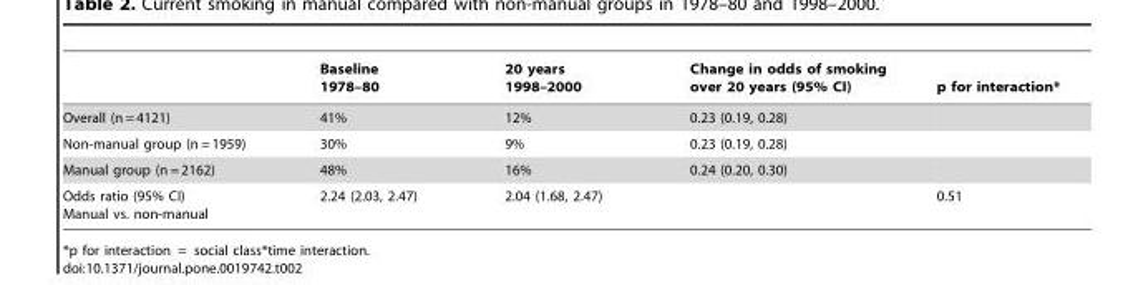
<table><thead><tr><td></td><td>Baseline 1978–80</td><td>20 years 1998–2000</td><td>Change in odds of smoking over 20 years (95% CI)</td><td>p for interaction*</td></tr></thead><tbody><tr><td>Overall (n = 4121)</td><td>41%</td><td>12%</td><td>0.23 (0.19, 0.28)</td><td></td></tr><tr><td>Non-manual group (n = 1959)</td><td>30%</td><td>9%</td><td>0.23 (0.19, 0.28)</td><td></td></tr><tr><td>Manual group (n = 2162)</td><td>48%</td><td>16%</td><td>0.24 (0.20, 0.30)</td><td></td></tr><tr><td>Odds ratio (95% CI) Manual vs. non-manual</td><td>2.24 (2.03, 2.47)</td><td>2.04 (1.68, 2.47)</td><td></td><td>0.51</td></tr></tbody></table>